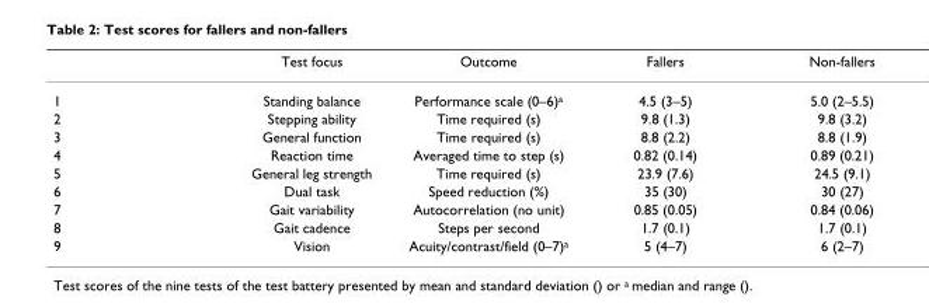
<table><thead><tr><td></td><td>Test focus</td><td>Outcome</td><td>Fallers</td><td>Non-fallers</td></tr></thead><tbody><tr><td>1</td><td>Standing balance</td><td>Performance scale (0–6)<sup>a</sup></td><td>4.5 (3–5)</td><td>5.0 (2–5.5)</td></tr><tr><td>2</td><td>Stepping ability</td><td>Time required (s)</td><td>9.8 (1.3)</td><td>9.8 (3.2)</td></tr><tr><td>3</td><td>General function</td><td>Time required (s)</td><td>8.8 (2.2)</td><td>8.8 (1.9)</td></tr><tr><td>4</td><td>Reaction time</td><td>Averaged time to step (s)</td><td>0.82 (0.14)</td><td>0.89 (0.21)</td></tr><tr><td>5</td><td>General leg strength</td><td>Time required (s)</td><td>23.9 (7.6)</td><td>24.5 (9.1)</td></tr><tr><td>6</td><td>Dual task</td><td>Speed reduction (%)</td><td>35 (30)</td><td>30 (27)</td></tr><tr><td>7</td><td>Gait variability</td><td>Autocorrelation (no unit)</td><td>0.85 (0.05)</td><td>0.84 (0.06)</td></tr><tr><td>8</td><td>Gait cadence</td><td>Steps per second</td><td>1.7 (0.1)</td><td>1.7 (0.1)</td></tr><tr><td>9</td><td>Vision</td><td>Acuity/contrast/field (0–7)<sup>a</sup></td><td>5 (4–7)</td><td>6 (2–7)</td></tr></tbody></table>